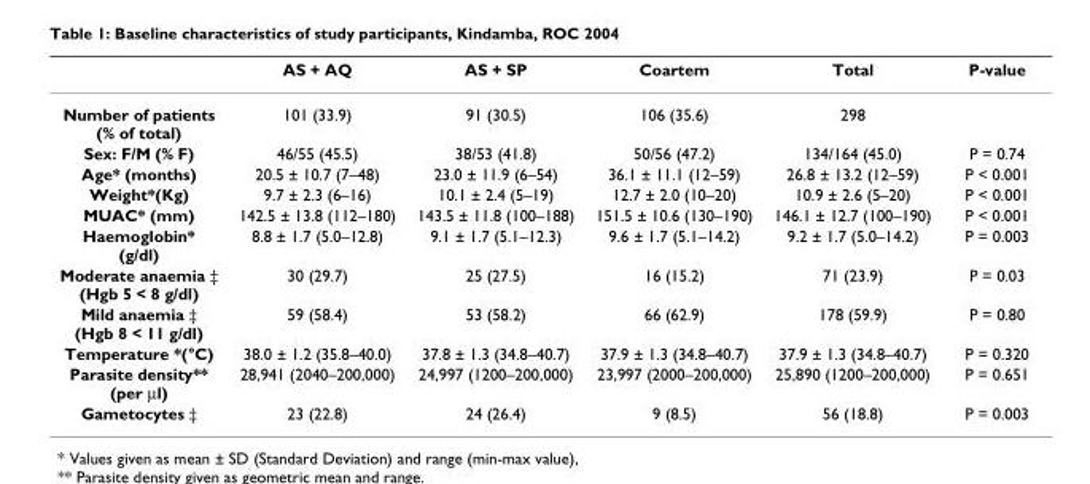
<table><thead><tr><td></td><td>AS + AQ</td><td>AS + SP</td><td>Coartem</td><td>Total</td><td>P-value</td></tr></thead><tbody><tr><td>Number of patients (% of total)</td><td>101 (33.9)</td><td>91 (30.5)</td><td>106 (35.6)</td><td>298</td><td></td></tr><tr><td>Sex: F/M (% F)</td><td>46/55 (45.5)</td><td>38/53 (41.8)</td><td>50/56 (47.2)</td><td>134/164 (45.0)</td><td>P = 0.74</td></tr><tr><td>Age* (months)</td><td>20.5 ± 10.7 (7–48)</td><td>23.0 ± 11.9 (6–54)</td><td>36.1 ± 11.1 (12–59)</td><td>26.8 ± 13.2 (12–59)</td><td>P &lt; 0.001</td></tr><tr><td>Weight*(Kg)</td><td>9.7 ± 2.3 (6–16)</td><td>10.1 ± 2.4 (5–19)</td><td>12.7 ± 2.0 (10–20)</td><td>10.9 ± 2.6 (5–20)</td><td>P &lt; 0.001</td></tr><tr><td>MUAC* (mm)</td><td>142.5 ± 13.8 (112–180)</td><td>143.5 ± 11.8 (100–188)</td><td>151.5 ± 10.6 (130–190)</td><td>146.1 ± 12.7 (100–190)</td><td>P &lt; 0.001</td></tr><tr><td>Haemoglobin* (g/dl)</td><td>8.8 ± 1.7 (5.0–12.8)</td><td>9.1 ± 1.7 (5.1–12.3)</td><td>9.6 ± 1.7 (5.1–14.2)</td><td>9.2 ± 1.7 (5.0–14.2)</td><td>P = 0.003</td></tr><tr><td>Moderate anaemia ‡ (Hgb 5 &lt; 8 g/dl)</td><td>30 (29.7)</td><td>25 (27.5)</td><td>16 (15.2)</td><td>71 (23.9)</td><td>P = 0.03</td></tr><tr><td>Mild anaemia ‡ (Hgb 8 &lt; 11 g/dl)</td><td>59 (58.4)</td><td>53 (58.2)</td><td>66 (62.9)</td><td>178 (59.9)</td><td>P = 0.80</td></tr><tr><td>Temperature *(°C)</td><td>38.0 ± 1.2 (35.8–40.0)</td><td>37.8 ± 1.3 (34.8–40.7)</td><td>37.9 ± 1.3 (34.8–40.7)</td><td>37.9 ± 1.3 (34.8–40.7)</td><td>P = 0.320</td></tr><tr><td>Parasite density** (per μl)</td><td>28,941 (2040–200,000)</td><td>24,997 (1200–200,000)</td><td>23,997 (2000–200,000)</td><td>25,890 (1200–200,000)</td><td>P = 0.651</td></tr><tr><td>Gametocytes ‡</td><td>23 (22.8)</td><td>24 (26.4)</td><td>9 (8.5)</td><td>56 (18.8)</td><td>P = 0.003</td></tr></tbody></table>